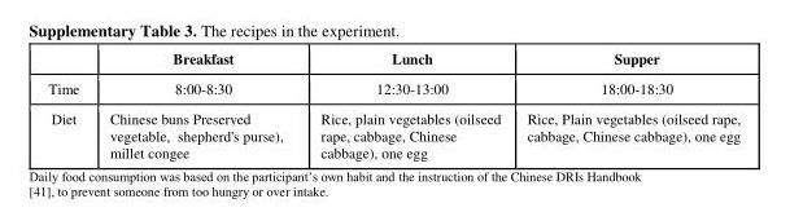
<table><thead><tr><td></td><td>Breakfast</td><td>Lunch</td><td>Supper</td></tr></thead><tbody><tr><td>Time</td><td>8:00-8:30</td><td>12:30-13:00</td><td>18:00-18:30</td></tr><tr><td>Diet</td><td>Chinese buns Preserved vegetable, shepherd&#x27;s purse), millet congee</td><td>Rice, plain vegetables (oilseed rape, cabbage, Chinese cabbage), one egg</td><td>Rice, Plain vegetables (oilseed rape, cabbage, Chinese cabbage), one egg</td></tr></tbody></table>